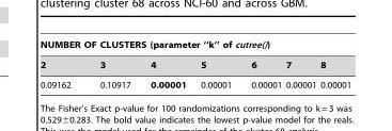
<table><thead><tr><td colspan="7">NUMBER OF CLUSTERS (parameter ‘‘k’’ of cutree())</td></tr><tr><td>2</td><td>3</td><td>4</td><td>5</td><td>6</td><td>7</td><td>8</td></tr></thead><tbody><tr><td>0.09162</td><td>0.10917</td><td>0.00001</td><td>0.00001</td><td>0.00001</td><td>0.00001</td><td>0.00001</td></tr></tbody></table>